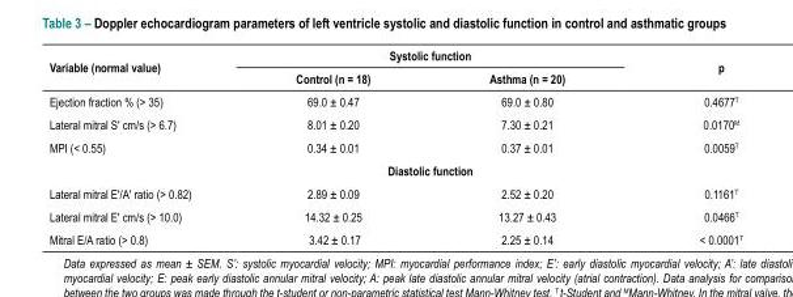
<table><thead><tr><td rowspan="2">Variable (normal value)</td><td colspan="2">Systolic function</td><td rowspan="2">p</td></tr><tr><td>Control (n = 18)</td><td>Asthma (n = 20)</td></tr></thead><tbody><tr><td>Ejection fraction % (&gt; 35)</td><td>69.0 ± 0.47</td><td>69.0 ± 0.80</td><td>0.4677<sup>T</sup></td></tr><tr><td>Lateral mitral S&#x27; cm/s (&gt; 6.7)</td><td>8.01 ± 0.20</td><td>7.30 ± 0.21</td><td>0.0170<sup>M</sup></td></tr><tr><td>MPI (&lt; 0.55)</td><td>0.34 ± 0.01</td><td>0.37 ± 0.01</td><td>0.0059<sup>T</sup></td></tr><tr><td colspan="4">Diastolic function</td></tr><tr><td>Lateral mitral E&#x27;/A&#x27; ratio (&gt; 0.82)</td><td>2.89 ± 0.09</td><td>2.52 ± 0.20</td><td>0.1161<sup>T</sup></td></tr><tr><td>Lateral mitral E&#x27; cm/s (&gt; 10.0)</td><td>14.32 ± 0.25</td><td>13.27 ± 0.43</td><td>0.0466<sup>T</sup></td></tr><tr><td>Mitral E/A ratio (&gt; 0.8)</td><td>3.42 ± 0.17</td><td>2.25 ± 0.14</td><td>&lt; 0.0001<sup>T</sup></td></tr></tbody></table>